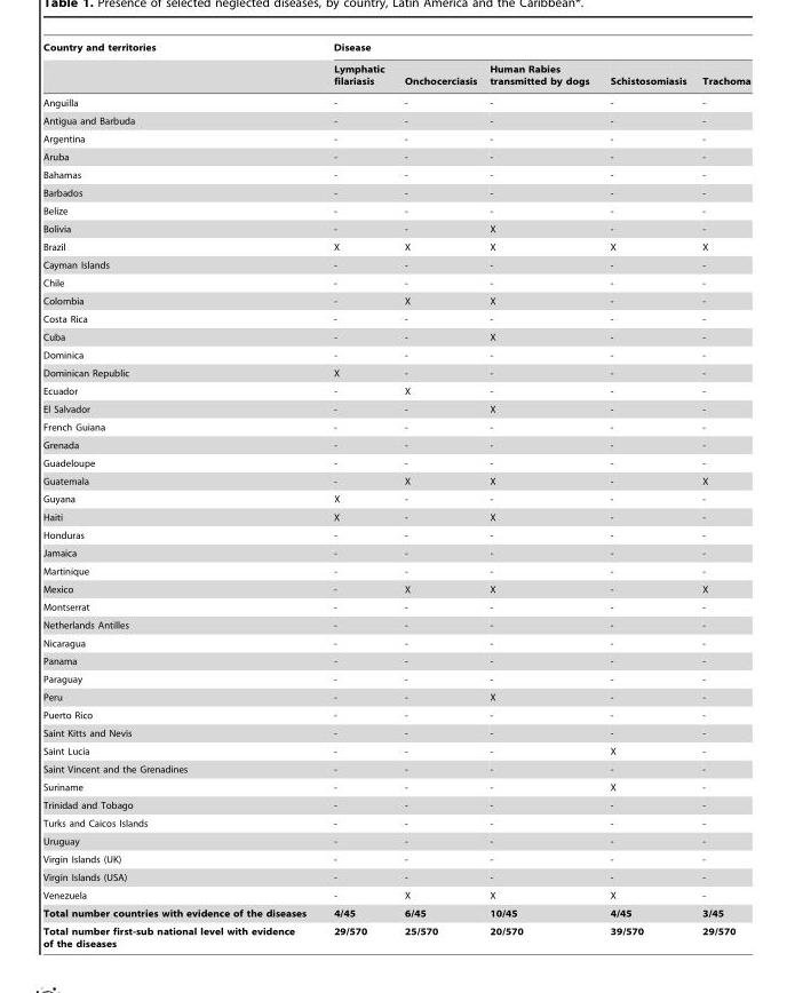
<table><thead><tr><td rowspan="2">Country and territories</td><td colspan="5">Disease</td></tr><tr><td>Lymphatic filariasis</td><td>Onchocerciasis</td><td>Human Rabies transmitted by dogs</td><td>Schistosomiasis</td><td>Trachoma</td></tr></thead><tbody><tr><td>Anguilla</td><td>-</td><td>-</td><td>-</td><td>-</td><td>-</td></tr><tr><td>Antigua and Barbuda</td><td>-</td><td>-</td><td>-</td><td>-</td><td>-</td></tr><tr><td>Argentina</td><td>-</td><td>-</td><td>-</td><td>-</td><td>-</td></tr><tr><td>Aruba</td><td>-</td><td>-</td><td>-</td><td>-</td><td>-</td></tr><tr><td>Bahamas</td><td>-</td><td>-</td><td>-</td><td>-</td><td>-</td></tr><tr><td>Barbados</td><td>-</td><td>-</td><td>-</td><td>-</td><td>-</td></tr><tr><td>Belize</td><td>-</td><td>-</td><td>-</td><td>-</td><td>-</td></tr><tr><td>Bolivia</td><td>-</td><td>-</td><td>X</td><td>-</td><td>-</td></tr><tr><td>Brazil</td><td>X</td><td>X</td><td>X</td><td>X</td><td>X</td></tr><tr><td>Cayman Islands</td><td>-</td><td>-</td><td>-</td><td>-</td><td>-</td></tr><tr><td>Chile</td><td>-</td><td>-</td><td>-</td><td>-</td><td>-</td></tr><tr><td>Colombia</td><td>-</td><td>X</td><td>X</td><td>-</td><td>-</td></tr><tr><td>Costa Rica</td><td>-</td><td>-</td><td>-</td><td>-</td><td>-</td></tr><tr><td>Cuba</td><td>-</td><td>-</td><td>X</td><td>-</td><td>-</td></tr><tr><td>Dominica</td><td>-</td><td>-</td><td>-</td><td>-</td><td>-</td></tr><tr><td>Dominican Republic</td><td>X</td><td>-</td><td>-</td><td>-</td><td>-</td></tr><tr><td>Ecuador</td><td>-</td><td>X</td><td>-</td><td>-</td><td>-</td></tr><tr><td>El Salvador</td><td>-</td><td>-</td><td>X</td><td>-</td><td>-</td></tr><tr><td>French Guiana</td><td>-</td><td>-</td><td>-</td><td>-</td><td>-</td></tr><tr><td>Grenada</td><td>-</td><td>-</td><td>-</td><td>-</td><td>-</td></tr><tr><td>Guadeloupe</td><td>-</td><td>-</td><td>-</td><td>-</td><td>-</td></tr><tr><td>Guatemala</td><td>-</td><td>X</td><td>X</td><td>-</td><td>X</td></tr><tr><td>Guyana</td><td>X</td><td>-</td><td>-</td><td>-</td><td>-</td></tr><tr><td>Haiti</td><td>X</td><td>-</td><td>X</td><td>-</td><td>-</td></tr><tr><td>Honduras</td><td>-</td><td>-</td><td>-</td><td>-</td><td>-</td></tr><tr><td>Jamaica</td><td>-</td><td>-</td><td>-</td><td>-</td><td>-</td></tr><tr><td>Martinique</td><td>-</td><td>-</td><td>-</td><td>-</td><td>-</td></tr><tr><td>Mexico</td><td>-</td><td>X</td><td>X</td><td>-</td><td>X</td></tr><tr><td>Montserrat</td><td>-</td><td>-</td><td>-</td><td>-</td><td>-</td></tr><tr><td>Netherlands Antilles</td><td>-</td><td>-</td><td>-</td><td>-</td><td>-</td></tr><tr><td>Nicaragua</td><td>-</td><td>-</td><td>-</td><td>-</td><td>-</td></tr><tr><td>Panama</td><td>-</td><td>-</td><td>-</td><td>-</td><td>-</td></tr><tr><td>Paraguay</td><td>-</td><td>-</td><td>-</td><td>-</td><td>-</td></tr><tr><td>Peru</td><td>-</td><td>-</td><td>X</td><td>-</td><td>-</td></tr><tr><td>Puerto Rico</td><td>-</td><td>-</td><td>-</td><td>-</td><td>-</td></tr><tr><td>Saint Kitts and Nevis</td><td>-</td><td>-</td><td>-</td><td>-</td><td>-</td></tr><tr><td>Saint Lucia</td><td>-</td><td>-</td><td>-</td><td>X</td><td>-</td></tr><tr><td>Saint Vincent and the Grenadines</td><td>-</td><td>-</td><td>-</td><td>-</td><td>-</td></tr><tr><td>Suriname</td><td>-</td><td>-</td><td>-</td><td>X</td><td>-</td></tr><tr><td>Trinidad and Tobago</td><td>-</td><td>-</td><td>-</td><td>-</td><td>-</td></tr><tr><td>Turks and Caicos Islands</td><td>-</td><td>-</td><td>-</td><td>-</td><td>-</td></tr><tr><td>Uruguay</td><td>-</td><td>-</td><td>-</td><td>-</td><td>-</td></tr><tr><td>Virgin Islands (UK)</td><td>-</td><td>-</td><td>-</td><td>-</td><td>-</td></tr><tr><td>Virgin Islands (USA)</td><td>-</td><td>-</td><td>-</td><td>-</td><td>-</td></tr><tr><td>Venezuela</td><td>-</td><td>X</td><td>X</td><td>X</td><td>-</td></tr><tr><td>Total number countries with evidence of the diseases</td><td>4/45</td><td>6/45</td><td>10/45</td><td>4/45</td><td>3/45</td></tr><tr><td>Total number first-sub national level with evidence of the diseases</td><td>29/570</td><td>25/570</td><td>20/570</td><td>39/570</td><td>29/570</td></tr></tbody></table>